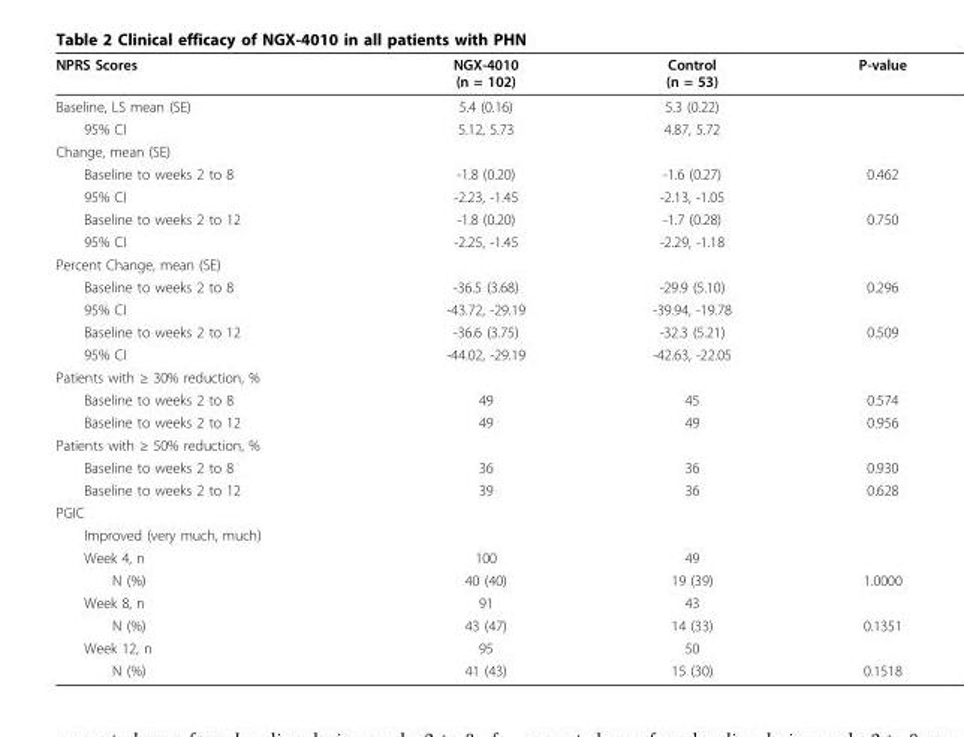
<table><thead><tr><td>NPRS Scores</td><td>NGX-4010 (n = 102)</td><td>Control (n = 53)</td><td>P-value</td></tr></thead><tbody><tr><td>Baseline, LS mean (SE)</td><td>5.4 (0.16)</td><td>5.3 (0.22)</td><td></td></tr><tr><td>95% CI</td><td>5.12, 5.73</td><td>4.87, 5.72</td><td></td></tr><tr><td colspan="4">Change, mean (SE)</td></tr><tr><td>Baseline to weeks 2 to 8</td><td>-1.8 (0.20)</td><td>-1.6 (0.27)</td><td>0.462</td></tr><tr><td>95% CI</td><td>-2.23, -1.45</td><td>-2.13, -1.05</td><td></td></tr><tr><td>Baseline to weeks 2 to 12</td><td>-1.8 (0.20)</td><td>-1.7 (0.28)</td><td>0.750</td></tr><tr><td>95% CI</td><td>-2.25, -1.45</td><td>-2.29, -1.18</td><td></td></tr><tr><td colspan="4">Percent Change, mean (SE)</td></tr><tr><td>Baseline to weeks 2 to 8</td><td>-36.5 (3.68)</td><td>-29.9 (5.10)</td><td>0.296</td></tr><tr><td>95% CI</td><td>-43.72, -29.19</td><td>-39.94, -19.78</td><td></td></tr><tr><td>Baseline to weeks 2 to 12</td><td>-36.6 (3.75)</td><td>-32.3 (5.21)</td><td>0.509</td></tr><tr><td>95% CI</td><td>-44.02, -29.19</td><td>-42.63, -22.05</td><td></td></tr><tr><td colspan="4">Patients with ≥ 30% reduction, %</td></tr><tr><td>Baseline to weeks 2 to 8</td><td>49</td><td>45</td><td>0.574</td></tr><tr><td>Baseline to weeks 2 to 12</td><td>49</td><td>49</td><td>0.956</td></tr><tr><td colspan="4">Patients with ≥ 50% reduction, %</td></tr><tr><td>Baseline to weeks 2 to 8</td><td>36</td><td>36</td><td>0.930</td></tr><tr><td>Baseline to weeks 2 to 12</td><td>39</td><td>36</td><td>0.628</td></tr><tr><td colspan="4">PGIC</td></tr><tr><td colspan="4">Improved (very much, much)</td></tr><tr><td>Week 4, n</td><td>100</td><td>49</td><td></td></tr><tr><td>N (%)</td><td>40 (40)</td><td>19 (39)</td><td>1.0000</td></tr><tr><td>Week 8, n</td><td>91</td><td>43</td><td></td></tr><tr><td>N (%)</td><td>43 (47)</td><td>14 (33)</td><td>0.1351</td></tr><tr><td>Week 12, n</td><td>95</td><td>50</td><td></td></tr><tr><td>N (%)</td><td>41 (43)</td><td>15 (30)</td><td>0.1518</td></tr></tbody></table>